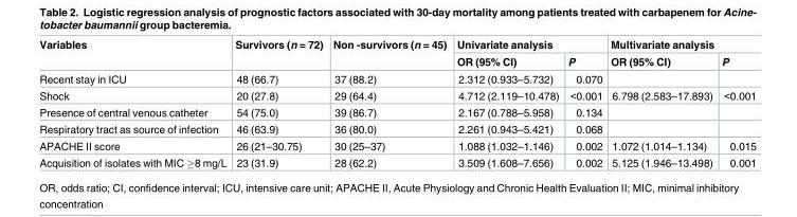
<table><thead><tr><td rowspan="2">Variables</td><td rowspan="2">Survivors (n = 72)</td><td rowspan="2">Non -survivors (n = 45)</td><td colspan="2">Univariate analysis</td><td colspan="2">Multivariate analysis</td></tr><tr><td>OR (95% CI)</td><td>P</td><td>OR (95% CI)</td><td>P</td></tr></thead><tbody><tr><td>Recent stay in ICU</td><td>48 (66.7)</td><td>37 (88.2)</td><td>2.312 (0.933–5.732)</td><td>0.070</td><td></td><td></td></tr><tr><td>Shock</td><td>20 (27.8)</td><td>29 (64.4)</td><td>4.712 (2.119–10.478)</td><td>&lt;0.001</td><td>6.798 (2.583–17.893)</td><td>&lt;0.001</td></tr><tr><td>Presence of central venous catheter</td><td>54 (75.0)</td><td>39 (86.7)</td><td>2.167 (0.788–5.958)</td><td>0.134</td><td></td><td></td></tr><tr><td>Respiratory tract as source of infection</td><td>46 (63.9)</td><td>36 (80.0)</td><td>2.261 (0.943–5.421)</td><td>0.068</td><td></td><td></td></tr><tr><td>APACHE II score</td><td>26 (21–30.75)</td><td>30 (25–37)</td><td>1.088 (1.032–1.146)</td><td>0.002</td><td>1.072 (1.014–1.134)</td><td>0.015</td></tr><tr><td>Acquisition of isolates with MIC ≥8 mg/L</td><td>23 (31.9)</td><td>28 (62.2)</td><td>3.509 (1.608–7.656)</td><td>0.002</td><td>5.125 (1.946–13.498)</td><td>0.001</td></tr></tbody></table>